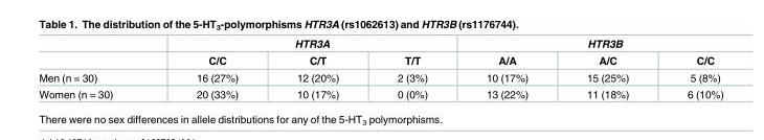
<table><thead><tr><td rowspan="2"></td><td colspan="3">HTR3A</td><td colspan="3">HTR3B</td></tr><tr><td>C/C</td><td>C/T</td><td>T/T</td><td>A/A</td><td>A/C</td><td>C/C</td></tr></thead><tbody><tr><td>Men (n = 30)</td><td>16 (27%)</td><td>12 (20%)</td><td>2 (3%)</td><td>10 (17%)</td><td>15 (25%)</td><td>5 (8%)</td></tr><tr><td>Women (n = 30)</td><td>20 (33%)</td><td>10 (17%)</td><td>0 (0%)</td><td>13 (22%)</td><td>11 (18%)</td><td>6 (10%)</td></tr></tbody></table>